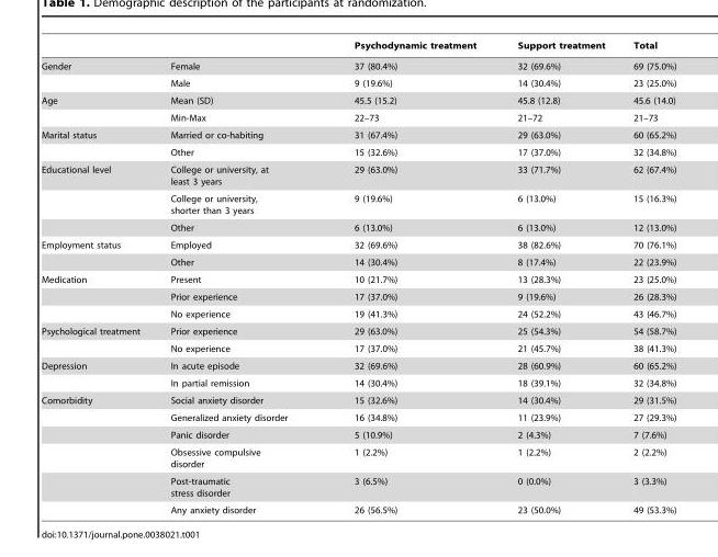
<table><thead><tr><td></td><td></td><td>Psychodynamic treatment</td><td>Support treatment</td><td>Total</td></tr></thead><tbody><tr><td rowspan="2">Gender</td><td>Female</td><td>37 (80.4%)</td><td>32 (69.6%)</td><td>69 (75.0%)</td></tr><tr><td>Male</td><td>9 (19.6%)</td><td>14 (30.4%)</td><td>23 (25.0%)</td></tr><tr><td rowspan="2">Age</td><td>Mean (SD)</td><td>45.5 (15.2)</td><td>45.8 (12.8)</td><td>45.6 (14.0)</td></tr><tr><td>Min-Max</td><td>22–73</td><td>21–72</td><td>21–73</td></tr><tr><td rowspan="2">Marital status</td><td>Married or co-habiting</td><td>31 (67.4%)</td><td>29 (63.0%)</td><td>60 (65.2%)</td></tr><tr><td>Other</td><td>15 (32.6%)</td><td>17 (37.0%)</td><td>32 (34.8%)</td></tr><tr><td rowspan="3">Educational level</td><td>College or university, at least 3 years</td><td>29 (63.0%)</td><td>33 (71.7%)</td><td>62 (67.4%)</td></tr><tr><td>College or university, shorter than 3 years</td><td>9 (19.6%)</td><td>6 (13.0%)</td><td>15 (16.3%)</td></tr><tr><td>Other</td><td>6 (13.0%)</td><td>6 (13.0%)</td><td>12 (13.0%)</td></tr><tr><td rowspan="2">Employment status</td><td>Employed</td><td>32 (69.6%)</td><td>38 (82.6%)</td><td>70 (76.1%)</td></tr><tr><td>Other</td><td>14 (30.4%)</td><td>8 (17.4%)</td><td>22 (23.9%)</td></tr><tr><td rowspan="3">Medication</td><td>Present</td><td>10 (21.7%)</td><td>13 (28.3%)</td><td>23 (25.0%)</td></tr><tr><td>Prior experience</td><td>17 (37.0%)</td><td>9 (19.6%)</td><td>26 (28.3%)</td></tr><tr><td>No experience</td><td>19 (41.3%)</td><td>24 (52.2%)</td><td>43 (46.7%)</td></tr><tr><td rowspan="2">Psychological treatment</td><td>Prior experience</td><td>29 (63.0%)</td><td>25 (54.3%)</td><td>54 (58.7%)</td></tr><tr><td>No experience</td><td>17 (37.0%)</td><td>21 (45.7%)</td><td>38 (41.3%)</td></tr><tr><td rowspan="2">Depression</td><td>In acute episode</td><td>32 (69.6%)</td><td>28 (60.9%)</td><td>60 (65.2%)</td></tr><tr><td>In partial remission</td><td>14 (30.4%)</td><td>18 (39.1%)</td><td>32 (34.8%)</td></tr><tr><td rowspan="6">Comorbidity</td><td>Social anxiety disorder</td><td>15 (32.6%)</td><td>14 (30.4%)</td><td>29 (31.5%)</td></tr><tr><td>Generalized anxiety disorder</td><td>16 (34.8%)</td><td>11 (23.9%)</td><td>27 (29.3%)</td></tr><tr><td>Panic disorder</td><td>5 (10.9%)</td><td>2 (4.3%)</td><td>7 (7.6%)</td></tr><tr><td>Obsessive compulsive disorder</td><td>1 (2.2%)</td><td>1 (2.2%)</td><td>2 (2.2%)</td></tr><tr><td>Post-traumatic stress disorder</td><td>3 (6.5%)</td><td>0 (0.0%)</td><td>3 (3.3%)</td></tr><tr><td>Any anxiety disorder</td><td>26 (56.5%)</td><td>23 (50.0%)</td><td>49 (53.3%)</td></tr></tbody></table>